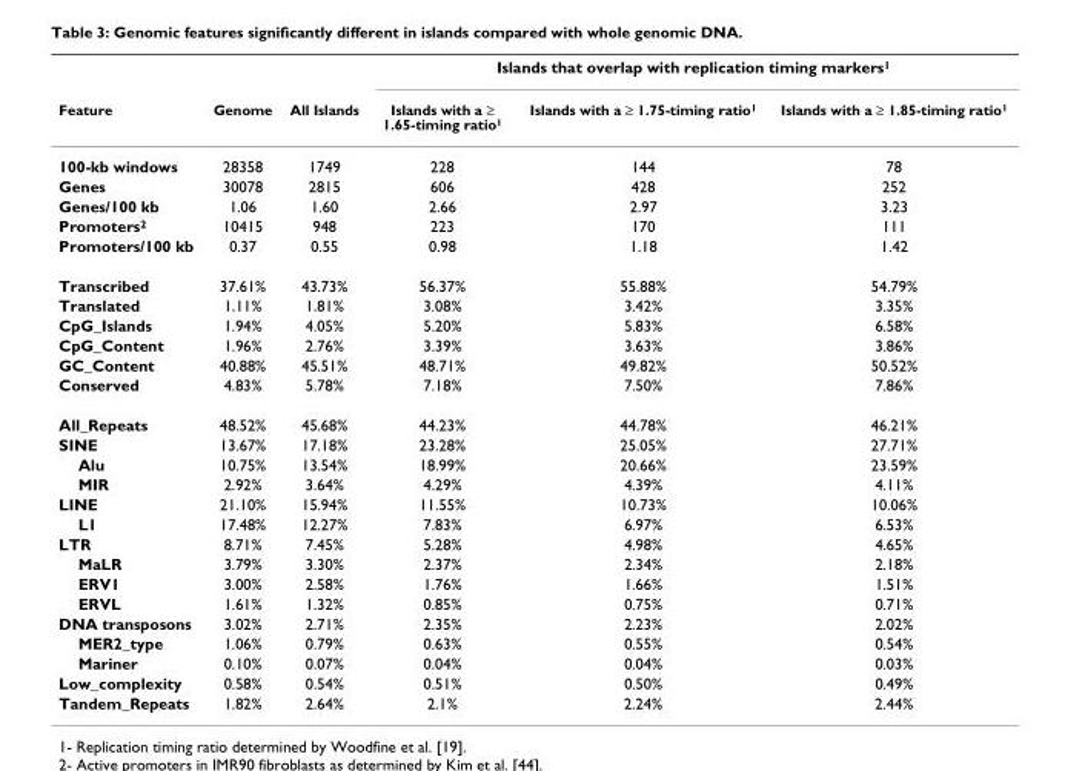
<table><thead><tr><td rowspan="2">Feature</td><td rowspan="2">Genome</td><td rowspan="2">All Islands</td><td colspan="3">Islands that overlap with replication timing markers1</td></tr><tr><td>Islands with a ≥ 1.65-timing ratio1</td><td>Islands with a ≥ 1.75-timing ratio1</td><td>Islands with a ≥ 1.85-timing ratio1</td></tr></thead><tbody><tr><td>100-kb windows</td><td>28358</td><td>1749</td><td>228</td><td>144</td><td>78</td></tr><tr><td>Genes</td><td>30078</td><td>2815</td><td>606</td><td>428</td><td>252</td></tr><tr><td>Genes/100 kb</td><td>1.06</td><td>1.60</td><td>2.66</td><td>2.97</td><td>3.23</td></tr><tr><td>Promoters2</td><td>10415</td><td>948</td><td>223</td><td>170</td><td>111</td></tr><tr><td>Promoters/100 kb</td><td>0.37</td><td>0.55</td><td>0.98</td><td>1.18</td><td>1.42</td></tr><tr><td>Transcribed</td><td>37.61%</td><td>43.73%</td><td>56.37%</td><td>55.88%</td><td>54.79%</td></tr><tr><td>Translated</td><td>1.11%</td><td>1.81%</td><td>3.08%</td><td>3.42%</td><td>3.35%</td></tr><tr><td>CpG_Islands</td><td>1.94%</td><td>4.05%</td><td>5.20%</td><td>5.83%</td><td>6.58%</td></tr><tr><td>CpG_Content</td><td>1.96%</td><td>2.76%</td><td>3.39%</td><td>3.63%</td><td>3.86%</td></tr><tr><td>GC_Content</td><td>40.88%</td><td>45.51%</td><td>48.71%</td><td>49.82%</td><td>50.52%</td></tr><tr><td>Conserved</td><td>4.83%</td><td>5.78%</td><td>7.18%</td><td>7.50%</td><td>7.86%</td></tr><tr><td>All_Repeats</td><td>48.52%</td><td>45.68%</td><td>44.23%</td><td>44.78%</td><td>46.21%</td></tr><tr><td>SINE</td><td>13.67%</td><td>17.18%</td><td>23.28%</td><td>25.05%</td><td>27.71%</td></tr><tr><td>Alu</td><td>10.75%</td><td>13.54%</td><td>18.99%</td><td>20.66%</td><td>23.59%</td></tr><tr><td>MIR</td><td>2.92%</td><td>3.64%</td><td>4.29%</td><td>4.39%</td><td>4.11%</td></tr><tr><td>LINE</td><td>21.10%</td><td>15.94%</td><td>11.55%</td><td>10.73%</td><td>10.06%</td></tr><tr><td>L1</td><td>17.48%</td><td>12.27%</td><td>7.83%</td><td>6.97%</td><td>6.53%</td></tr><tr><td>LTR</td><td>8.71%</td><td>7.45%</td><td>5.28%</td><td>4.98%</td><td>4.65%</td></tr><tr><td>MaLR</td><td>3.79%</td><td>3.30%</td><td>2.37%</td><td>2.34%</td><td>2.18%</td></tr><tr><td>ERV1</td><td>3.00%</td><td>2.58%</td><td>1.76%</td><td>1.66%</td><td>1.51%</td></tr><tr><td>ERVL</td><td>1.61%</td><td>1.32%</td><td>0.85%</td><td>0.75%</td><td>0.71%</td></tr><tr><td>DNA transposons</td><td>3.02%</td><td>2.71%</td><td>2.35%</td><td>2.23%</td><td>2.02%</td></tr><tr><td>MER2_type</td><td>1.06%</td><td>0.79%</td><td>0.63%</td><td>0.55%</td><td>0.54%</td></tr><tr><td>Mariner</td><td>0.10%</td><td>0.07%</td><td>0.04%</td><td>0.04%</td><td>0.03%</td></tr><tr><td>Low_complexity</td><td>0.58%</td><td>0.54%</td><td>0.51%</td><td>0.50%</td><td>0.49%</td></tr><tr><td>Tandem_Repeats</td><td>1.82%</td><td>2.64%</td><td>2.1%</td><td>2.24%</td><td>2.44%</td></tr></tbody></table>